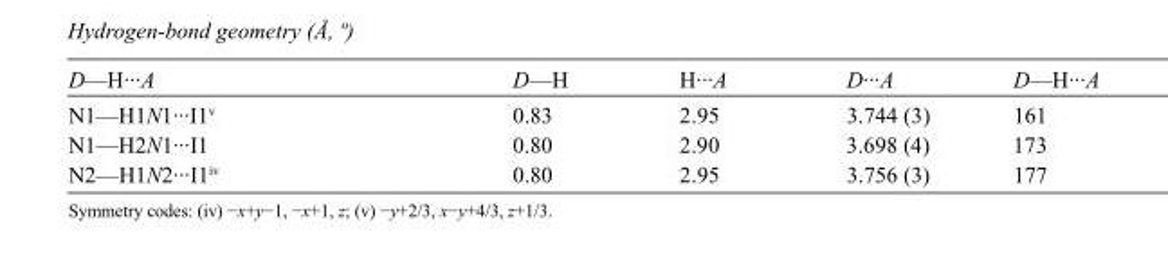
<table><tbody><tr><td>D—H···A</td><td>D—H</td><td>H···A</td><td>D···A</td><td>D—H···A</td></tr><tr><td>N1—H1N1···I1<sup>v</sup></td><td>0.83</td><td>2.95</td><td>3.744 (3)</td><td>161</td></tr><tr><td>N1—H2N1···I1</td><td>0.80</td><td>2.90</td><td>3.698 (4)</td><td>173</td></tr><tr><td>N2—H1N2···I1<sup>iv</sup></td><td>0.80</td><td>2.95</td><td>3.756 (3)</td><td>177</td></tr></tbody></table>